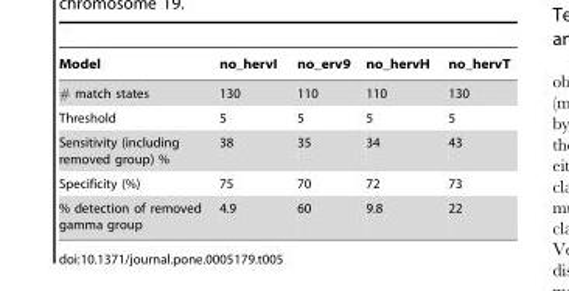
<table><thead><tr><td>Model</td><td>no_hervI</td><td>no_erv9</td><td>no_hervH</td><td>no_hervT</td></tr></thead><tbody><tr><td># match states</td><td>130</td><td>110</td><td>110</td><td>130</td></tr><tr><td>Threshold</td><td>5</td><td>5</td><td>5</td><td>5</td></tr><tr><td>Sensitivity (including removed group) %</td><td>38</td><td>35</td><td>34</td><td>43</td></tr><tr><td>Specificity (%)</td><td>75</td><td>70</td><td>72</td><td>73</td></tr><tr><td>% detection of removed gamma group</td><td>4.9</td><td>60</td><td>9.8</td><td>22</td></tr></tbody></table>